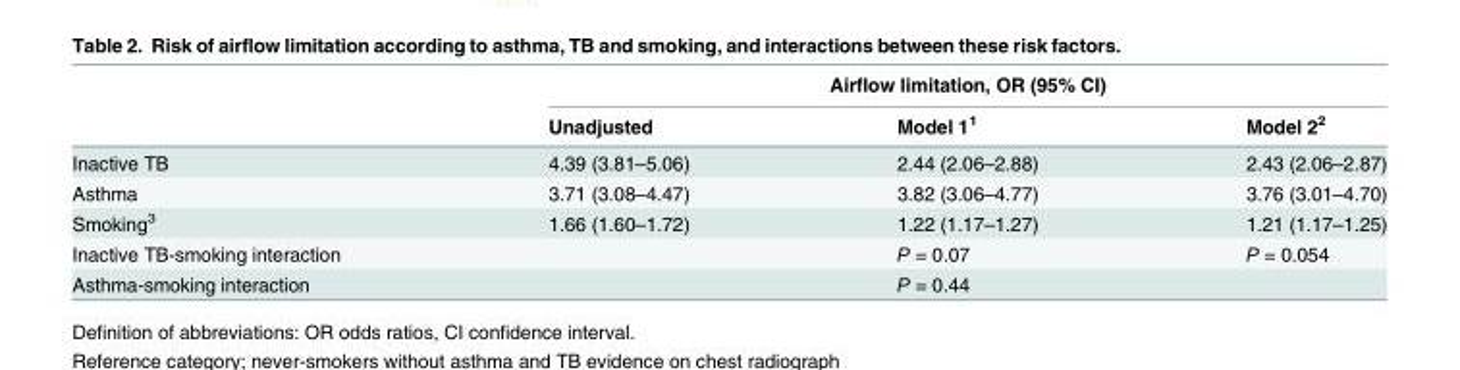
<table><thead><tr><td rowspan="2"></td><td colspan="3">Airflow limitation, OR (95% CI)</td></tr><tr><td>Unadjusted</td><td>Model 1<sup>1</sup></td><td>Model 2<sup>2</sup></td></tr></thead><tbody><tr><td>Inactive TB</td><td>4.39 (3.81–5.06)</td><td>2.44 (2.06–2.88)</td><td>2.43 (2.06–2.87)</td></tr><tr><td>Asthma</td><td>3.71 (3.08–4.47)</td><td>3.82 (3.06–4.77)</td><td>3.76 (3.01–4.70)</td></tr><tr><td>Smoking<sup>3</sup></td><td>1.66 (1.60–1.72)</td><td>1.22 (1.17–1.27)</td><td>1.21 (1.17–1.25)</td></tr><tr><td>Inactive TB-smoking interaction</td><td></td><td>P = 0.07</td><td>P = 0.054</td></tr><tr><td>Asthma-smoking interaction</td><td></td><td>P = 0.44</td><td></td></tr></tbody></table>